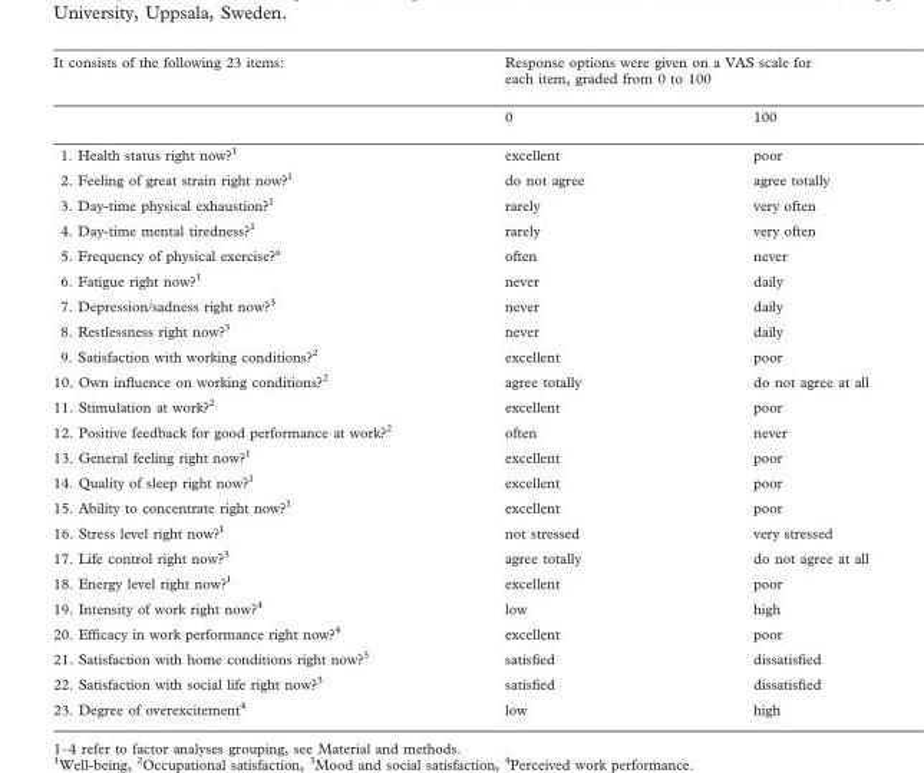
<table><tbody><tr><td rowspan="2">It consists of the following 23 items:</td><td colspan="2">Response options were given on a VAS scale for each item, graded from 0 to 100</td></tr><tr><td>0</td><td>100</td></tr><tr><td>1. Health status right now?<sup>1</sup></td><td>excellent</td><td>poor</td></tr><tr><td>2. Feeling of great strain right now?<sup>1</sup></td><td>do not agree</td><td>agree totally</td></tr><tr><td>3. Day-time physical exhaustion?<sup>1</sup></td><td>rarely</td><td>very often</td></tr><tr><td>4. Day-time mental tiredness?<sup>1</sup></td><td>rarely</td><td>very often</td></tr><tr><td>5. Frequency of physical exercise?<sup>a</sup></td><td>often</td><td>never</td></tr><tr><td>6. Fatigue right now?<sup>1</sup></td><td>never</td><td>daily</td></tr><tr><td>7. Depression/sadness right now?<sup>3</sup></td><td>never</td><td>daily</td></tr><tr><td>8. Restlessness right now?<sup>3</sup></td><td>never</td><td>daily</td></tr><tr><td>9. Satisfaction with working conditions?<sup>2</sup></td><td>excellent</td><td>poor</td></tr><tr><td>10. Own influence on working conditions?<sup>2</sup></td><td>agree totally</td><td>do not agree at all</td></tr><tr><td>11. Stimulation at work?<sup>2</sup></td><td>excellent</td><td>poor</td></tr><tr><td>12. Positive feedback for good performance at work?<sup>2</sup></td><td>often</td><td>never</td></tr><tr><td>13. General feeling right now?<sup>1</sup></td><td>excellent</td><td>poor</td></tr><tr><td>14. Quality of sleep right now?<sup>1</sup></td><td>excellent</td><td>poor</td></tr><tr><td>15. Ability to concentrate right now?<sup>1</sup></td><td>excellent</td><td>poor</td></tr><tr><td>16. Stress level right now?<sup>1</sup></td><td>not stressed</td><td>very stressed</td></tr><tr><td>17. Life control right now?<sup>3</sup></td><td>agree totally</td><td>do not agree at all</td></tr><tr><td>18. Energy level right now?<sup>1</sup></td><td>excellent</td><td>poor</td></tr><tr><td>19. Intensity of work right now?<sup>4</sup></td><td>low</td><td>high</td></tr><tr><td>20. Efficacy in work performance right now?<sup>4</sup></td><td>excellent</td><td>poor</td></tr><tr><td>21. Satisfaction with home conditions right now?<sup>3</sup></td><td>satisfied</td><td>dissatisfied</td></tr><tr><td>22. Satisfaction with social life right now?<sup>3</sup></td><td>satisfied</td><td>dissatisfied</td></tr><tr><td>23. Degree of overexcitement<sup>4</sup></td><td>low</td><td>high</td></tr></tbody></table>